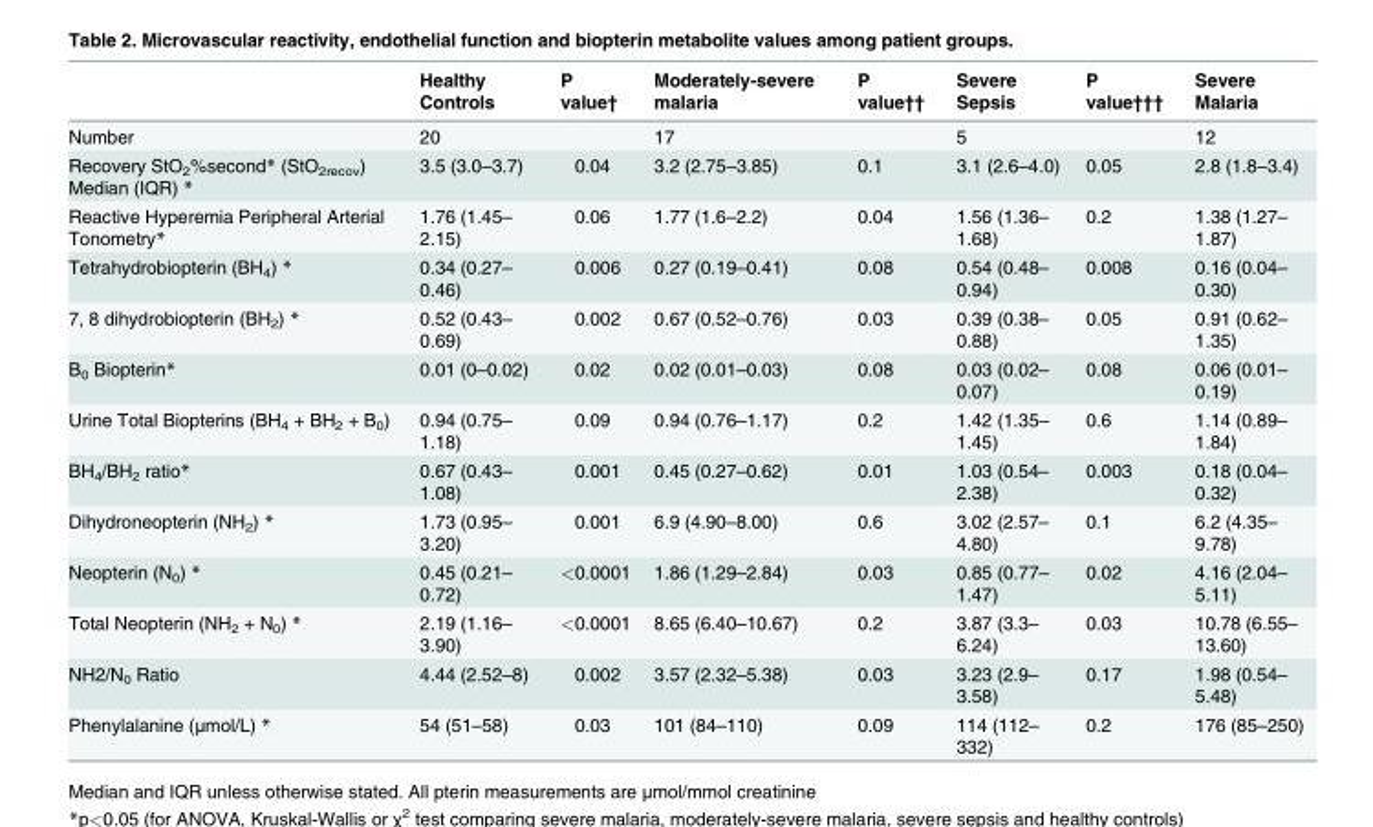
<table><thead><tr><td></td><td>Healthy Controls</td><td>P value†</td><td>Moderately-severe malaria</td><td>P value††</td><td>Severe Sepsis</td><td>P value†††</td><td>Severe Malaria</td></tr></thead><tbody><tr><td>Number</td><td>20</td><td></td><td>17</td><td></td><td>5</td><td></td><td>12</td></tr><tr><td>Recovery StO<sub>2</sub>%second* (StO<sub>2recov</sub>) Median (IQR) *</td><td>3.5 (3.0–3.7)</td><td>0.04</td><td>3.2 (2.75–3.85)</td><td>0.1</td><td>3.1 (2.6–4.0)</td><td>0.05</td><td>2.8 (1.8–3.4)</td></tr><tr><td>Reactive Hyperemia Peripheral Arterial Tonometry*</td><td>1.76 (1.45– 2.15)</td><td>0.06</td><td>1.77 (1.6–2.2)</td><td>0.04</td><td>1.56 (1.36– 1.68)</td><td>0.2</td><td>1.38 (1.27– 1.87)</td></tr><tr><td>Tetrahydrobiopterin (BH<sub>4</sub>) *</td><td>0.34 (0.27– 0.46)</td><td>0.006</td><td>0.27 (0.19–0.41)</td><td>0.08</td><td>0.54 (0.48– 0.94)</td><td>0.008</td><td>0.16 (0.04– 0.30)</td></tr><tr><td>7, 8 dihydrobiopterin (BH<sub>2</sub>) *</td><td>0.52 (0.43– 0.69)</td><td>0.002</td><td>0.67 (0.52–0.76)</td><td>0.03</td><td>0.39 (0.38– 0.88)</td><td>0.05</td><td>0.91 (0.62– 1.35)</td></tr><tr><td>B<sub>0</sub> Biopterin*</td><td>0.01 (0–0.02)</td><td>0.02</td><td>0.02 (0.01–0.03)</td><td>0.08</td><td>0.03 (0.02– 0.07)</td><td>0.08</td><td>0.06 (0.01– 0.19)</td></tr><tr><td>Urine Total Biopterins (BH<sub>4</sub> + BH<sub>2</sub> + B<sub>0</sub>)</td><td>0.94 (0.75– 1.18)</td><td>0.09</td><td>0.94 (0.76–1.17)</td><td>0.2</td><td>1.42 (1.35– 1.45)</td><td>0.6</td><td>1.14 (0.89– 1.84)</td></tr><tr><td>BH<sub>4</sub>/BH<sub>2</sub> ratio*</td><td>0.67 (0.43– 1.08)</td><td>0.001</td><td>0.45 (0.27–0.62)</td><td>0.01</td><td>1.03 (0.54– 2.38)</td><td>0.003</td><td>0.18 (0.04– 0.32)</td></tr><tr><td>Dihydroneopterin (NH<sub>2</sub>) *</td><td>1.73 (0.95– 3.20)</td><td>0.001</td><td>6.9 (4.90–8.00)</td><td>0.6</td><td>3.02 (2.57– 4.80)</td><td>0.1</td><td>6.2 (4.35– 9.78)</td></tr><tr><td>Neopterin (N<sub>0</sub>) *</td><td>0.45 (0.21– 0.72)</td><td>&lt;0.0001</td><td>1.86 (1.29–2.84)</td><td>0.03</td><td>0.85 (0.77– 1.47)</td><td>0.02</td><td>4.16 (2.04– 5.11)</td></tr><tr><td>Total Neopterin (NH<sub>2</sub> + N<sub>0</sub>) *</td><td>2.19 (1.16– 3.90)</td><td>&lt;0.0001</td><td>8.65 (6.40–10.67)</td><td>0.2</td><td>3.87 (3.3– 6.24)</td><td>0.03</td><td>10.78 (6.55– 13.60)</td></tr><tr><td>NH2/N<sub>0</sub> Ratio</td><td>4.44 (2.52–8)</td><td>0.002</td><td>3.57 (2.32–5.38)</td><td>0.03</td><td>3.23 (2.9– 3.58)</td><td>0.17</td><td>1.98 (0.54– 5.48)</td></tr><tr><td>Phenylalanine (μmol/L) *</td><td>54 (51–58)</td><td>0.03</td><td>101 (84–110)</td><td>0.09</td><td>114 (112– 332)</td><td>0.2</td><td>176 (85–250)</td></tr></tbody></table>